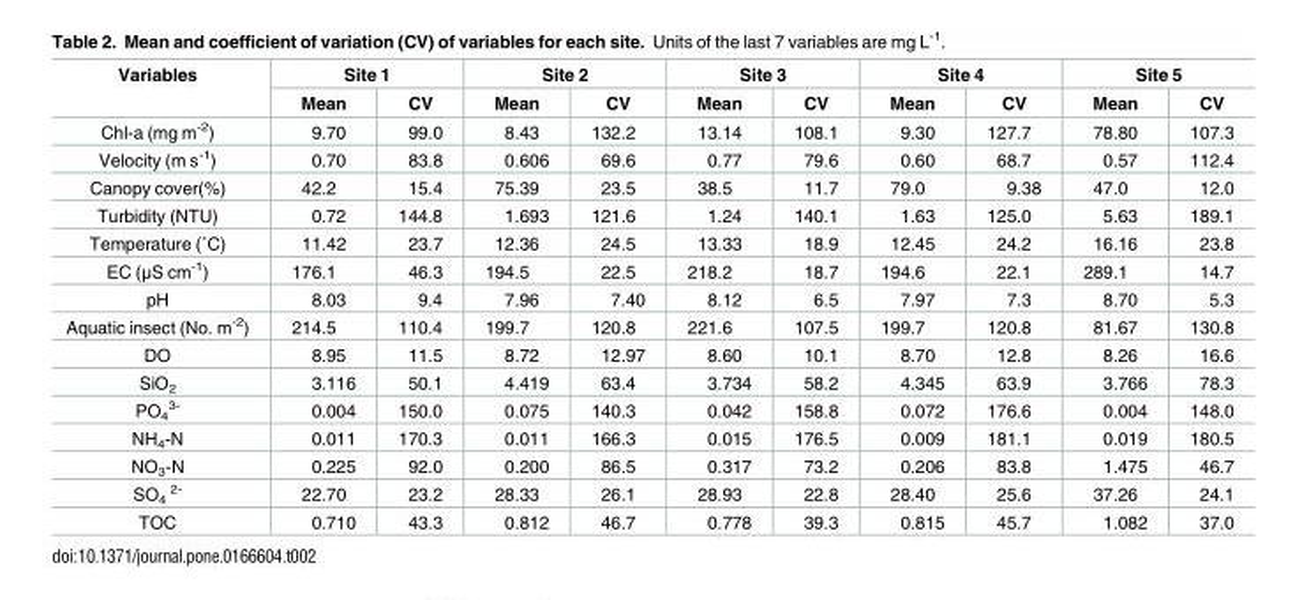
<table><thead><tr><td rowspan="2">Variables</td><td colspan="2">Site 1</td><td colspan="2">Site 2</td><td colspan="2">Site 3</td><td colspan="2">Site 4</td><td colspan="2">Site 5</td></tr><tr><td>Mean</td><td>CV</td><td>Mean</td><td>CV</td><td>Mean</td><td>CV</td><td>Mean</td><td>CV</td><td>Mean</td><td>CV</td></tr></thead><tbody><tr><td>Chl-a (mg m<sup>-2</sup>)</td><td>9.70</td><td>99.0</td><td>8.43</td><td>132.2</td><td>13.14</td><td>108.1</td><td>9.30</td><td>127.7</td><td>78.80</td><td>107.3</td></tr><tr><td>Velocity (m s<sup>-1</sup>)</td><td>0.70</td><td>83.8</td><td>0.606</td><td>69.6</td><td>0.77</td><td>79.6</td><td>0.60</td><td>68.7</td><td>0.57</td><td>112.4</td></tr><tr><td>Canopy cover(%)</td><td>42.2</td><td>15.4</td><td>75.39</td><td>23.5</td><td>38.5</td><td>11.7</td><td>79.0</td><td>9.38</td><td>47.0</td><td>12.0</td></tr><tr><td>Turbidity (NTU)</td><td>0.72</td><td>144.8</td><td>1.693</td><td>121.6</td><td>1.24</td><td>140.1</td><td>1.63</td><td>125.0</td><td>5.63</td><td>189.1</td></tr><tr><td>Temperature (˚C)</td><td>11.42</td><td>23.7</td><td>12.36</td><td>24.5</td><td>13.33</td><td>18.9</td><td>12.45</td><td>24.2</td><td>16.16</td><td>23.8</td></tr><tr><td>EC (μS cm<sup>-1</sup>)</td><td>176.1</td><td>46.3</td><td>194.5</td><td>22.5</td><td>218.2</td><td>18.7</td><td>194.6</td><td>22.1</td><td>289.1</td><td>14.7</td></tr><tr><td>pH</td><td>8.03</td><td>9.4</td><td>7.96</td><td>7.40</td><td>8.12</td><td>6.5</td><td>7.97</td><td>7.3</td><td>8.70</td><td>5.3</td></tr><tr><td>Aquatic insect (No. m<sup>-2</sup>)</td><td>214.5</td><td>110.4</td><td>199.7</td><td>120.8</td><td>221.6</td><td>107.5</td><td>199.7</td><td>120.8</td><td>81.67</td><td>130.8</td></tr><tr><td>DO</td><td>8.95</td><td>11.5</td><td>8.72</td><td>12.97</td><td>8.60</td><td>10.1</td><td>8.70</td><td>12.8</td><td>8.26</td><td>16.6</td></tr><tr><td>SiO<sub>2</sub></td><td>3.116</td><td>50.1</td><td>4.419</td><td>63.4</td><td>3.734</td><td>58.2</td><td>4.345</td><td>63.9</td><td>3.766</td><td>78.3</td></tr><tr><td>PO<sub>4</sub> <sup>3-</sup></td><td>0.004</td><td>150.0</td><td>0.075</td><td>140.3</td><td>0.042</td><td>158.8</td><td>0.072</td><td>176.6</td><td>0.004</td><td>148.0</td></tr><tr><td>NH<sub>4</sub>-N</td><td>0.011</td><td>170.3</td><td>0.011</td><td>166.3</td><td>0.015</td><td>176.5</td><td>0.009</td><td>181.1</td><td>0.019</td><td>180.5</td></tr><tr><td>NO<sub>3</sub>-N</td><td>0.225</td><td>92.0</td><td>0.200</td><td>86.5</td><td>0.317</td><td>73.2</td><td>0.206</td><td>83.8</td><td>1.475</td><td>46.7</td></tr><tr><td>SO<sub>4</sub> <sup>2-</sup></td><td>22.70</td><td>23.2</td><td>28.33</td><td>26.1</td><td>28.93</td><td>22.8</td><td>28.40</td><td>25.6</td><td>37.26</td><td>24.1</td></tr><tr><td>TOC</td><td>0.710</td><td>43.3</td><td>0.812</td><td>46.7</td><td>0.778</td><td>39.3</td><td>0.815</td><td>45.7</td><td>1.082</td><td>37.0</td></tr></tbody></table>